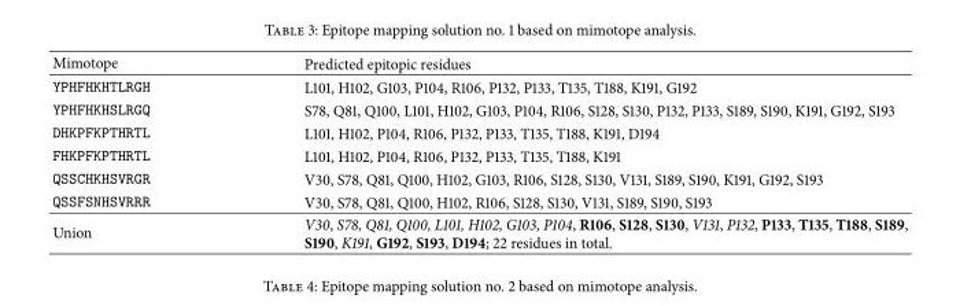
<table><thead><tr><td>Mimotope</td><td>Predicted epitopic residues</td></tr></thead><tbody><tr><td>YPHFHKHTLRGH</td><td>L101, H102, G103, P104, R106, P132, P133, T135, T188, K191, G192</td></tr><tr><td>YPHFHKHSLRGQ</td><td>S78, Q81, Q100, L101, H102, G103, P104, R106, S128, S130, P132, P133, S189, S190, K191, G192, S193</td></tr><tr><td>DHKPFKPTHRTL</td><td>L101, H102, P104, R106, P132, P133, T135, T188, K191, D194</td></tr><tr><td>FHKPFKPTHRTL</td><td>L101, H102, P104, R106, P132, P133, T135, T188, K191</td></tr><tr><td>QSSCHKHSVRGR</td><td>V30, S78, Q81, Q100, H102, G103, R106, S128, S130, V131, S189, S190, K191, G192, S193</td></tr><tr><td>QSSFSNHSVRRR</td><td>V30, S78, Q81, Q100, H102, R106, S128, S130, V131, S189, S190, S193</td></tr><tr><td>Union</td><td>V30, S78, Q81, Q100, L101, H102, G103, P104, R106, S128, S130, V131, P132, P133, T135, T188, S189, S190, K191, G192, S193, D194; 22 residues in total.</td></tr></tbody></table>